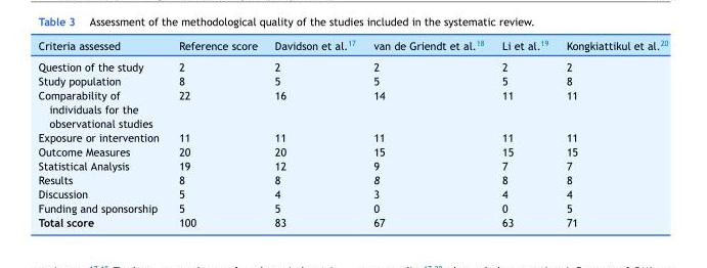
<table><thead><tr><td>Criteria assessed</td><td>Reference score</td><td>Davidson et al.<sup>17</sup></td><td>van de Griendt et al.<sup>18</sup></td><td>Li et al.<sup>19</sup></td><td>Kongkiattikul et al.<sup>20</sup></td></tr></thead><tbody><tr><td>Question of the study</td><td>2</td><td>2</td><td>2</td><td>2</td><td>2</td></tr><tr><td>Study population</td><td>8</td><td>5</td><td>5</td><td>5</td><td>8</td></tr><tr><td>Comparability of individuals for the observational studies</td><td>22</td><td>16</td><td>14</td><td>11</td><td>11</td></tr><tr><td>Exposure or intervention</td><td>11</td><td>11</td><td>11</td><td>11</td><td>11</td></tr><tr><td>Outcome Measures</td><td>20</td><td>20</td><td>15</td><td>15</td><td>15</td></tr><tr><td>Statistical Analysis</td><td>19</td><td>12</td><td>9</td><td>7</td><td>7</td></tr><tr><td>Results</td><td>8</td><td>8</td><td>8</td><td>8</td><td>8</td></tr><tr><td>Discussion</td><td>5</td><td>4</td><td>3</td><td>4</td><td>4</td></tr><tr><td>Funding and sponsorship</td><td>5</td><td>5</td><td>0</td><td>0</td><td>5</td></tr><tr><td>Total score</td><td>100</td><td>83</td><td>67</td><td>63</td><td>71</td></tr></tbody></table>